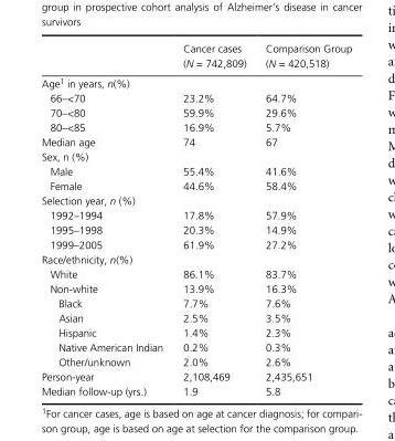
<table><thead><tr><td></td><td>Cancer cases (N = 742,809)</td><td>Comparison Group (N = 420,518)</td></tr></thead><tbody><tr><td colspan="3">Age1 in years, n(%)</td></tr><tr><td>66–&lt;70</td><td>23.2%</td><td>64.7%</td></tr><tr><td>70–&lt;80</td><td>59.9%</td><td>29.6%</td></tr><tr><td>80–&lt;85</td><td>16.9%</td><td>5.7%</td></tr><tr><td>Median age</td><td>74</td><td>67</td></tr><tr><td colspan="3">Sex, n (%)</td></tr><tr><td>Male</td><td>55.4%</td><td>41.6%</td></tr><tr><td>Female</td><td>44.6%</td><td>58.4%</td></tr><tr><td colspan="3">Selection year, n (%)</td></tr><tr><td>1992–1994</td><td>17.8%</td><td>57.9%</td></tr><tr><td>1995–1998</td><td>20.3%</td><td>14.9%</td></tr><tr><td>1999–2005</td><td>61.9%</td><td>27.2%</td></tr><tr><td colspan="3">Race/ethnicity, n(%)</td></tr><tr><td>White</td><td>86.1%</td><td>83.7%</td></tr><tr><td>Non- white</td><td>13.9%</td><td>16.3%</td></tr><tr><td>Black</td><td>7.7%</td><td>7.6%</td></tr><tr><td>Asian</td><td>2.5%</td><td>3.5%</td></tr><tr><td>Hispanic</td><td>1.4%</td><td>2.3%</td></tr><tr><td>Native American Indian</td><td>0.2%</td><td>0.3%</td></tr><tr><td>Other/unknown</td><td>2.0%</td><td>2.6%</td></tr><tr><td>Person- year</td><td>2,108,469</td><td>2,435,651</td></tr><tr><td>Median follow- up (yrs.)</td><td>1.9</td><td>5.8</td></tr></tbody></table>